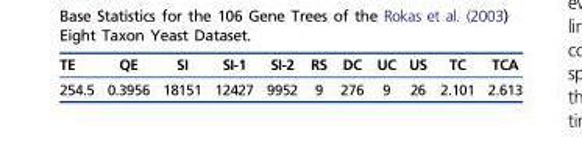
<table><thead><tr><td>TE</td><td>QE</td><td>SI</td><td>SI-1</td><td>SI-2</td><td>RS</td><td>DC</td><td>UC</td><td>US</td><td>TC</td><td>TCA</td></tr></thead><tbody><tr><td>254.5</td><td>0.3956</td><td>18151</td><td>12427</td><td>9952</td><td>9</td><td>276</td><td>9</td><td>26</td><td>2.101</td><td>2.613</td></tr></tbody></table>